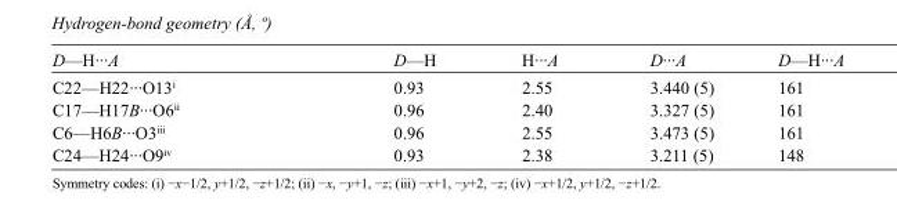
<table><tbody><tr><td>D—H···A</td><td>D—H</td><td>H···A</td><td>D···A</td><td>D—H···A</td></tr><tr><td>C22—H22···O13<sup>i</sup></td><td>0.93</td><td>2.55</td><td>3.440 (5)</td><td>161</td></tr><tr><td>C17—H17B···O6<sup>ii</sup></td><td>0.96</td><td>2.40</td><td>3.327 (5)</td><td>161</td></tr><tr><td>C6—H6B···O3<sup>iii</sup></td><td>0.96</td><td>2.55</td><td>3.473 (5)</td><td>161</td></tr><tr><td>C24—H24···O9<sup>iv</sup></td><td>0.93</td><td>2.38</td><td>3.211 (5)</td><td>148</td></tr></tbody></table>